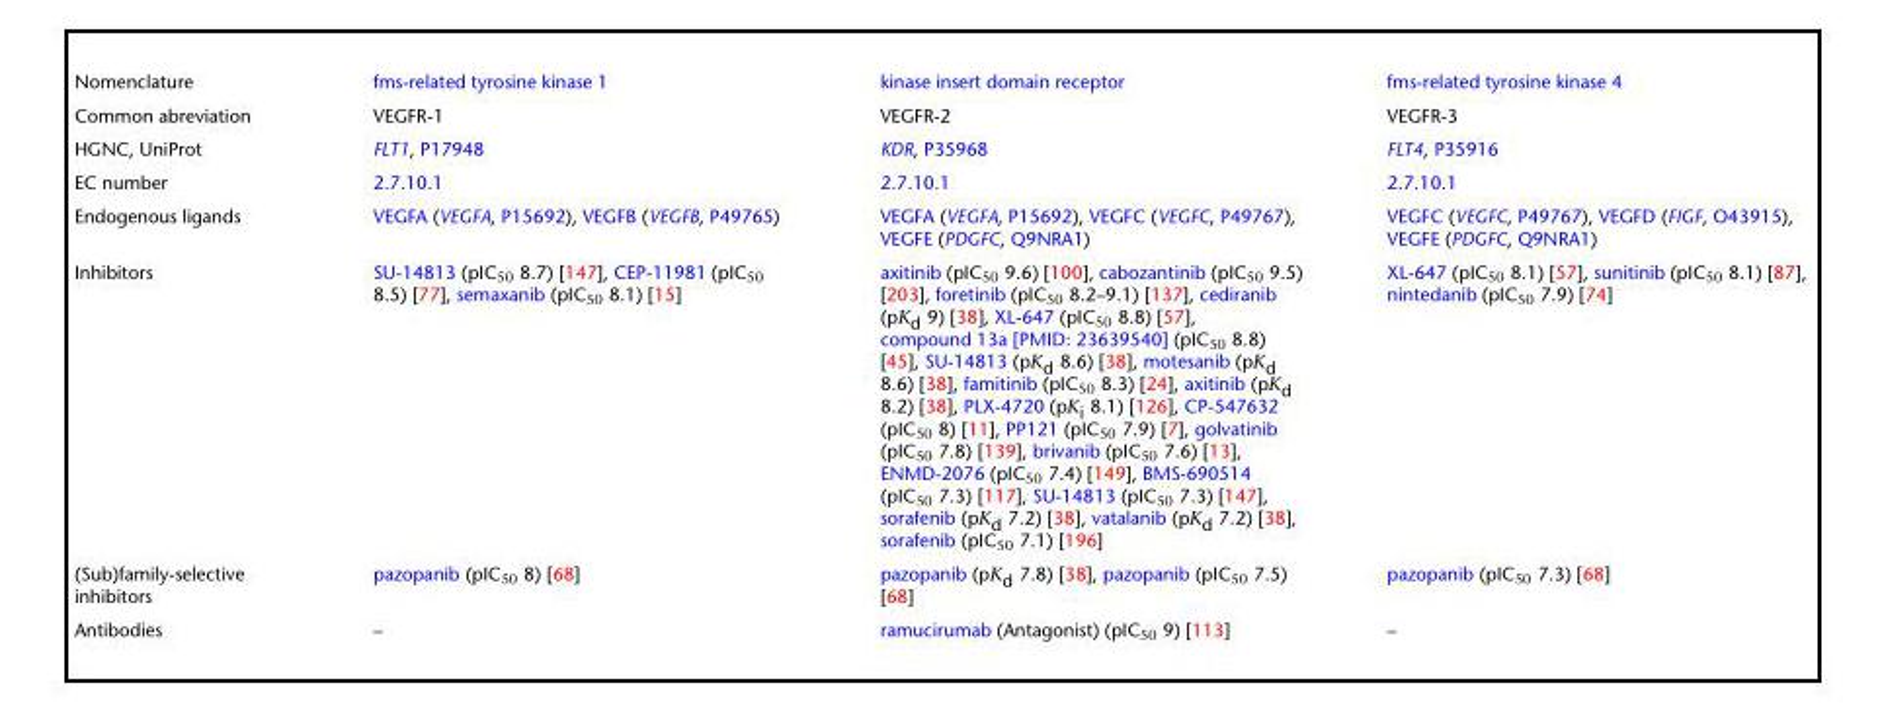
<table><tbody><tr><td>Nomenclature</td><td>fms-related tyrosine kinase 1</td><td>kinase insert domain receptor</td><td>fms-related tyrosine kinase 4</td></tr><tr><td>Common abreviation</td><td>VEGFR-1</td><td>VEGFR-2</td><td>VEGFR-3</td></tr><tr><td>HGNC, UniProt</td><td>FLT1, P17948</td><td>KDR, P35968</td><td>FLT4, P35916</td></tr><tr><td>EC number</td><td>2.7.10.1</td><td>2.7.10.1</td><td>2.7.10.1</td></tr><tr><td>Endogenous ligands</td><td>VEGFA (VEGFA, P15692), VEGFB (VEGFB, P49765)</td><td>VEGFA (VEGFA, P15692), VEGFC (VEGFC, P49767), VEGFE (PDGFC, Q9NRA1)</td><td>VEGFC (VEGFC, P49767), VEGFD (FIGF, O43915), VEGFE (PDGFC, Q9NRA1)</td></tr><tr><td>Inhibitors</td><td>SU-14813 (pIC<sub>50</sub> 8.7) [147], CEP-11981 (pIC<sub>50</sub> 8.5) [77], semaxanib (pIC<sub>50</sub> 8.1) [15]</td><td>axitinib (pIC<sub>50</sub> 9.6) [100], cabozantinib (pIC<sub>50</sub> 9.5) [203], foretinib (pIC<sub>50</sub> 8.2–9.1) [137], cediranib (pK<sub>d</sub> 9) [38], XL-647 (pIC<sub>50</sub> 8.8) [57], compound 13a [PMID: 23639540] (pIC<sub>50</sub> 8.8) [45], SU-14813 (pK<sub>d</sub> 8.6) [38], motesanib (pK<sub>d</sub> 8.6) [38], famitinib (pIC<sub>50</sub> 8.3) [24], axitinib (pK<sub>d</sub> 8.2) [38], PLX-4720 (pK<sub>i</sub> 8.1) [126], CP-547632 (pIC<sub>50</sub> 8) [11], PP121 (pIC<sub>50</sub> 7.9) [7], golvatinib (pIC<sub>50</sub> 7.8) [139], brivanib (pIC<sub>50</sub> 7.6) [13], ENMD-2076 (pIC<sub>50</sub> 7.4) [149], BMS-690514 (pIC<sub>50</sub> 7.3) [117], SU-14813 (pIC<sub>50</sub> 7.3) [147], sorafenib (pK<sub>d</sub> 7.2) [38], vatalanib (pK<sub>d</sub> 7.2) [38], sorafenib (pIC<sub>50</sub> 7.1) [196]</td><td>XL-647 (pIC<sub>50</sub> 8.1) [57], sunitinib (pIC<sub>50</sub> 8.1) [87], nintedanib (pIC<sub>50</sub> 7.9) [74]</td></tr><tr><td>(Sub)family-selective inhibitors</td><td>pazopanib (pIC<sub>50</sub> 8) [68]</td><td>pazopanib (pK<sub>d</sub> 7.8) [38], pazopanib (pIC<sub>50</sub> 7.5) [68]</td><td>pazopanib (pIC<sub>50</sub> 7.3) [68]</td></tr><tr><td>Antibodies</td><td>–</td><td>ramucirumab (Antagonist) (pIC<sub>50</sub> 9) [113]</td><td>–</td></tr></tbody></table>